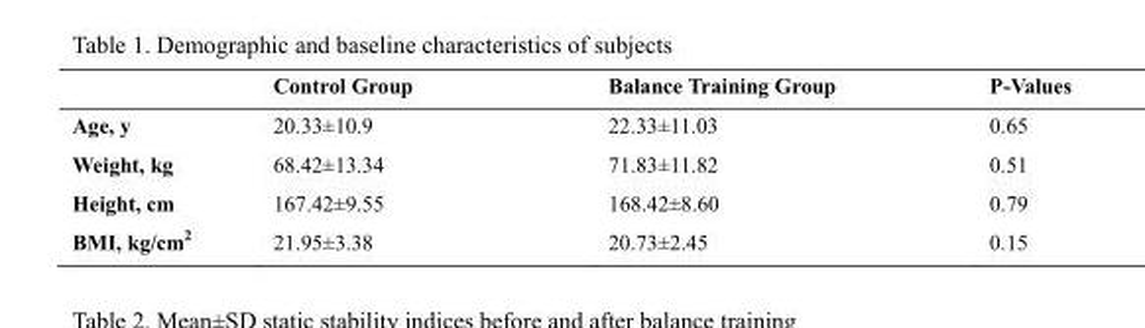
<table><thead><tr><td></td><td>Control Group</td><td>Balance Training Group</td><td>P-Values</td></tr></thead><tbody><tr><td>Age, y</td><td>20.33±10.9</td><td>22.33±11.03</td><td>0.65</td></tr><tr><td>Weight, kg</td><td>68.42±13.34</td><td>71.83±11.82</td><td>0.51</td></tr><tr><td>Height, cm</td><td>167.42±9.55</td><td>168.42±8.60</td><td>0.79</td></tr><tr><td>BMI, kg/cm<sup>2</sup></td><td>21.95±3.38</td><td>20.73±2.45</td><td>0.15</td></tr></tbody></table>